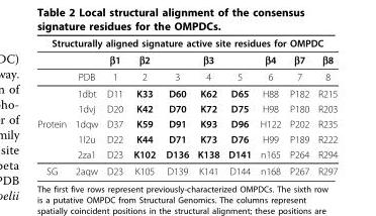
<table><thead><tr><td colspan="10">Structurally aligned signature active site residues for OMPDC</td></tr><tr><td rowspan="2"></td><td rowspan="2">PDB</td><td rowspan="2">β1 1</td><td rowspan="2">β2 2</td><td colspan="3">β3</td><td rowspan="2">β4 6</td><td rowspan="2">β7 7</td><td rowspan="2">β8 8</td></tr><tr><td>3</td><td>4</td><td>5</td></tr></thead><tbody><tr><td></td><td>1dbt</td><td>D11</td><td>K33</td><td>D60</td><td>K62</td><td>D65</td><td>H88</td><td>P182</td><td>R215</td></tr><tr><td></td><td>1dvj</td><td>D20</td><td>K42</td><td>D70</td><td>K72</td><td>D75</td><td>H98</td><td>P180</td><td>R203</td></tr><tr><td rowspan="3">Protein</td><td>1dqw</td><td>D37</td><td>K59</td><td>D91</td><td>K93</td><td>D96</td><td>H122</td><td>P202</td><td>R235</td></tr><tr><td>1l2u</td><td>D22</td><td>K44</td><td>D71</td><td>K73</td><td>D76</td><td>H99</td><td>P189</td><td>R222</td></tr><tr><td>2za1</td><td>D23</td><td>K102</td><td>D136</td><td>K138</td><td>D141</td><td>n165</td><td>P264</td><td>R294</td></tr><tr><td>SG</td><td>2aqw</td><td>D23</td><td>K105</td><td>D139</td><td>K141</td><td>D144</td><td>n168</td><td>P267</td><td>R297</td></tr></tbody></table>